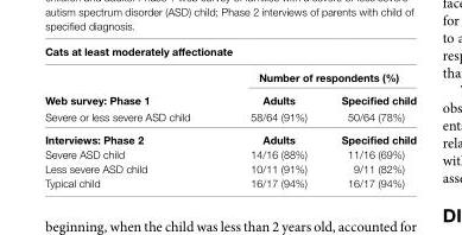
<table><thead><tr><td colspan="3">cats at least moderately affectionate</td></tr><tr><td rowspan="2">Web survey: Phase 1</td><td colspan="2">number of respondents (%)</td></tr><tr><td>adults</td><td>specified child</td></tr></thead><tbody><tr><td>Severe or less severe ASD child</td><td>58/64 (91%)</td><td>50/64 (78%)</td></tr><tr><td>interviews: Phase 2</td><td>adults</td><td>specified child</td></tr><tr><td>Severe ASD child</td><td>14/16 (88%)</td><td>11/16 (69%)</td></tr><tr><td>Less severe ASD child</td><td>10/11 (91%)</td><td>9/11 (82%)</td></tr><tr><td>Typical child</td><td>16/17 (94%)</td><td>16/17 (94%)</td></tr></tbody></table>